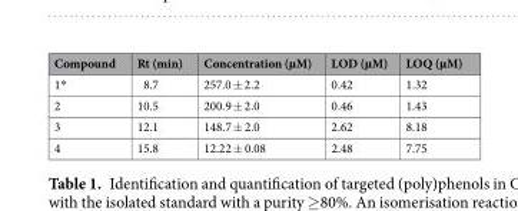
<table><thead><tr><td>Compound</td><td>Rt (min)</td><td>Concentration (µM)</td><td>LOD (µM)</td><td>LOQ (µM)</td></tr></thead><tbody><tr><td>1*</td><td>8.7</td><td>257.0 ± 2.2</td><td>0.42</td><td>1.32</td></tr><tr><td>2</td><td>10.5</td><td>200.9 ± 2.0</td><td>0.46</td><td>1.43</td></tr><tr><td>3</td><td>12.1</td><td>148.7 ± 2.0</td><td>2.62</td><td>8.18</td></tr><tr><td>4</td><td>15.8</td><td>12.22 ± 0.08</td><td>2.48</td><td>7.75</td></tr></tbody></table>